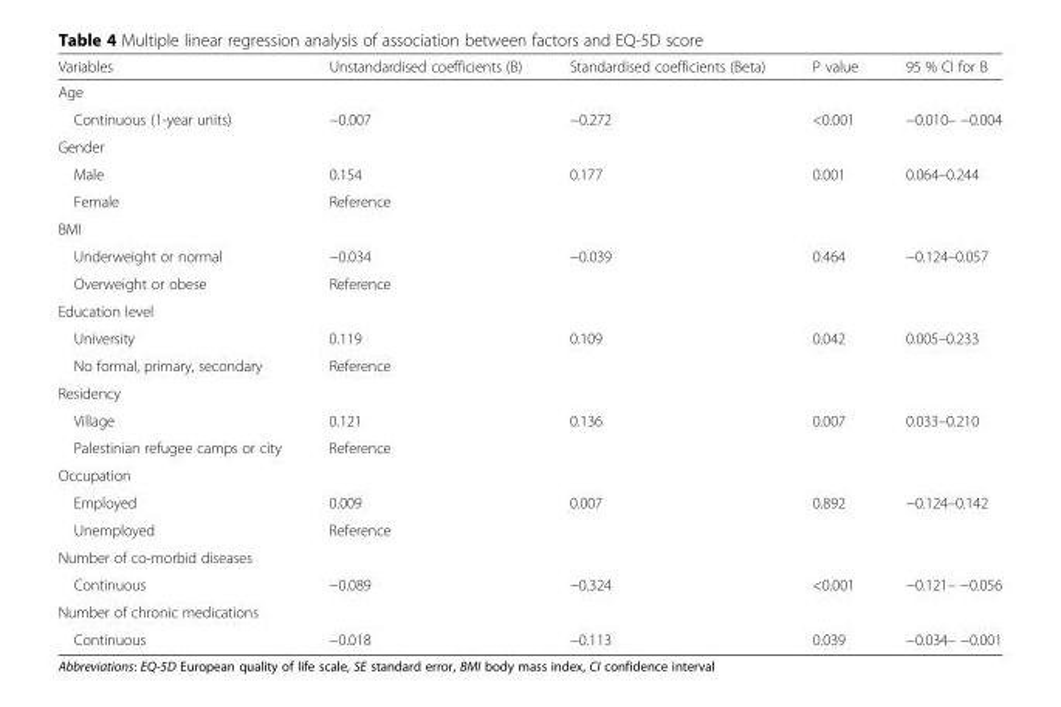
<table><thead><tr><td>Variables</td><td>Unstandardised coefficients (B)</td><td>Standardised coefficients (Beta)</td><td>P value</td><td>95 % CI for B</td></tr></thead><tbody><tr><td colspan="5">Age</td></tr><tr><td>Continuous (1-year units)</td><td>−0.007</td><td>−0.272</td><td>&lt;0.001</td><td>−0.010– −0.004</td></tr><tr><td colspan="5">Gender</td></tr><tr><td>Male</td><td>0.154</td><td rowspan="2">0.177</td><td rowspan="2">0.001</td><td rowspan="2">0.064–0.244</td></tr><tr><td>Female</td><td>Reference</td></tr><tr><td colspan="5">BMI</td></tr><tr><td>Underweight or normal</td><td>−0.034</td><td rowspan="2">−0.039</td><td rowspan="2">0.464</td><td rowspan="2">−0.124–0.057</td></tr><tr><td>Overweight or obese</td><td>Reference</td></tr><tr><td colspan="5">Education level</td></tr><tr><td>University</td><td>0.119</td><td rowspan="2">0.109</td><td rowspan="2">0.042</td><td rowspan="2">0.005–0.233</td></tr><tr><td>No formal, primary, secondary</td><td>Reference</td></tr><tr><td colspan="5">Residency</td></tr><tr><td>Village</td><td>0.121</td><td rowspan="2">0.136</td><td rowspan="2">0.007</td><td rowspan="2">0.033–0.210</td></tr><tr><td>Palestinian refugee camps or city</td><td>Reference</td></tr><tr><td colspan="5">Occupation</td></tr><tr><td>Employed</td><td>0.009</td><td rowspan="2">0.007</td><td rowspan="2">0.892</td><td rowspan="2">−0.124–0.142</td></tr><tr><td>Unemployed</td><td>Reference</td></tr><tr><td colspan="5">Number of co-morbid diseases</td></tr><tr><td>Continuous</td><td>−0.089</td><td>−0.324</td><td>&lt;0.001</td><td>−0.121– −0.056</td></tr><tr><td colspan="5">Number of chronic medications</td></tr><tr><td>Continuous</td><td>−0.018</td><td>−0.113</td><td>0.039</td><td>−0.034– −0.001</td></tr></tbody></table>